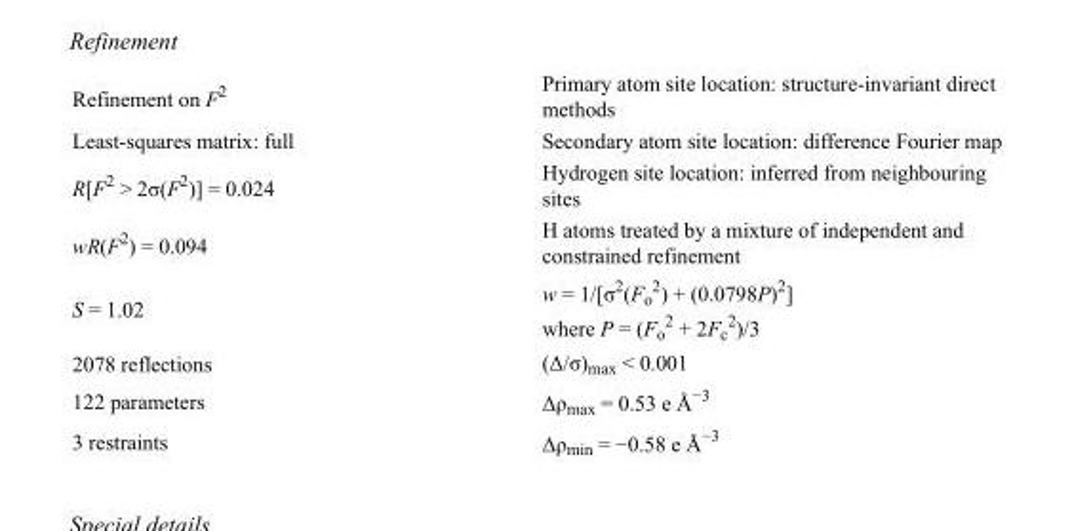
<table><tbody><tr><td>Refinement on F<sup>2</sup></td><td>Primary atom site location: structure-invariant direct methods</td></tr><tr><td>Least-squares matrix: full</td><td>Secondary atom site location: difference Fourier map</td></tr><tr><td>R[F<sup>2</sup> &gt; 2σ(F<sup>2</sup>)] = 0.024</td><td>Hydrogen site location: inferred from neighbouring sites</td></tr><tr><td>wR(F<sup>2</sup>) = 0.094</td><td>H atoms treated by a mixture of independent and constrained refinement</td></tr><tr><td>S = 1.02</td><td>w = 1/[σ<sup>2</sup>(F<sub>o</sub> <sup>2</sup>) + (0.0798P)<sup>2</sup>] where P = (F<sub>o</sub> <sup>2</sup> + 2F<sub>c</sub> <sup>2</sup>)/3</td></tr><tr><td>2078 reflections</td><td>(Δ/σ)<sub>max</sub> &lt; 0.001</td></tr><tr><td>122 parameters</td><td>Δρ<sub>max</sub> = 0.53 e Å<sup>−3</sup></td></tr><tr><td>3 restraints</td><td>Δρ<sub>min</sub> = −0.58 e Å<sup>−3</sup></td></tr></tbody></table>